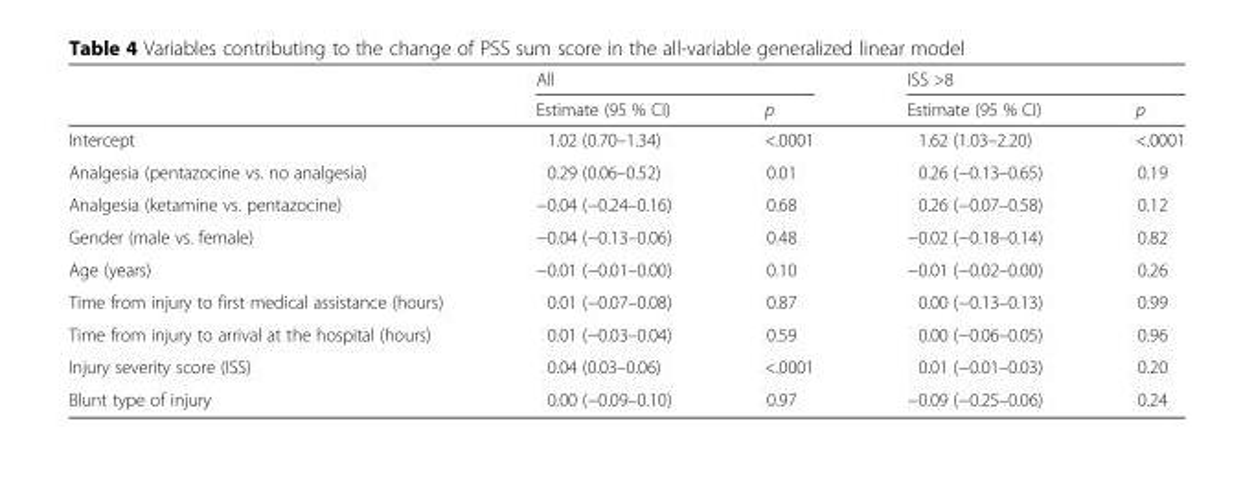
<table><thead><tr><td rowspan="2"></td><td colspan="2">All</td><td colspan="2">ISS &gt;8</td></tr><tr><td>Estimate (95 % CI)</td><td>p</td><td>Estimate (95 % CI)</td><td>p</td></tr></thead><tbody><tr><td>Intercept</td><td>1.02 (0.70–1.34)</td><td>&lt;.0001</td><td>1.62 (1.03–2.20)</td><td>&lt;.0001</td></tr><tr><td>Analgesia (pentazocine vs. no analgesia)</td><td>0.29 (0.06–0.52)</td><td>0.01</td><td>0.26 (−0.13–0.65)</td><td>0.19</td></tr><tr><td>Analgesia (ketamine vs. pentazocine)</td><td>−0.04 (−0.24–0.16)</td><td>0.68</td><td>0.26 (−0.07–0.58)</td><td>0.12</td></tr><tr><td>Gender (male vs. female)</td><td>−0.04 (−0.13–0.06)</td><td>0.48</td><td>−0.02 (−0.18–0.14)</td><td>0.82</td></tr><tr><td>Age (years)</td><td>−0.01 (−0.01–0.00)</td><td>0.10</td><td>−0.01 (−0.02–0.00)</td><td>0.26</td></tr><tr><td>Time from injury to first medical assistance (hours)</td><td>0.01 (−0.07–0.08)</td><td>0.87</td><td>0.00 (−0.13–0.13)</td><td>0.99</td></tr><tr><td>Time from injury to arrival at the hospital (hours)</td><td>0.01 (−0.03–0.04)</td><td>0.59</td><td>0.00 (−0.06–0.05)</td><td>0.96</td></tr><tr><td>Injury severity score (ISS)</td><td>0.04 (0.03–0.06)</td><td>&lt;.0001</td><td>0.01 (−0.01–0.03)</td><td>0.20</td></tr><tr><td>Blunt type of injury</td><td>0.00 (−0.09–0.10)</td><td>0.97</td><td>−0.09 (−0.25–0.06)</td><td>0.24</td></tr></tbody></table>